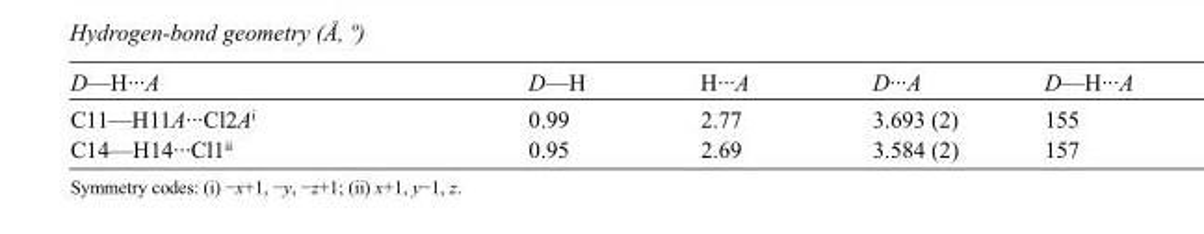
<table><tbody><tr><td>D—H···A</td><td>D—H</td><td>H···A</td><td>D···A</td><td>D—H···A</td></tr><tr><td>C11—H11A···Cl2A<sup>i</sup></td><td>0.99</td><td>2.77</td><td>3.693 (2)</td><td>155</td></tr><tr><td>C14—H14···Cl1<sup>ii</sup></td><td>0.95</td><td>2.69</td><td>3.584 (2)</td><td>157</td></tr></tbody></table>